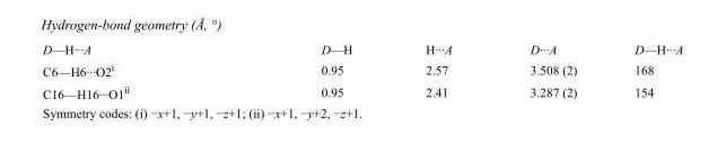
<table><tbody><tr><td>D—H···A</td><td>D—H</td><td>H···A</td><td>D···A</td><td>D—H···A</td></tr><tr><td>C6—H6···O2<sup>i</sup></td><td>0.95</td><td>2.57</td><td>3.508 (2)</td><td>168</td></tr><tr><td>C16—H16···O1<sup>ii</sup></td><td>0.95</td><td>2.41</td><td>3.287 (2)</td><td>154</td></tr></tbody></table>